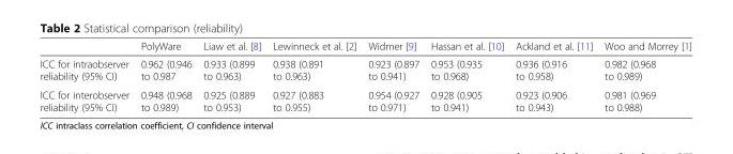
<table><thead><tr><td></td><td>PolyWare</td><td>Liaw et al. [8]</td><td>Lewinneck et al. [2]</td><td>Widmer [9]</td><td>Hassan et al. [10]</td><td>Ackland et al. [11]</td><td>Woo and Morrey [1]</td></tr></thead><tbody><tr><td>ICC for intraobserver reliability (95% CI)</td><td>0.962 (0.946 to 0.987</td><td>0.933 (0.899 to 0.963)</td><td>0.938 (0.891 to 0.963)</td><td>0.923 (0.897 to 0.941)</td><td>0.953 (0.935 to 0.968)</td><td>0.936 (0.916 to 0.958)</td><td>0.982 (0.968 to 0.989)</td></tr><tr><td>ICC for interobserver reliability (95% CI)</td><td>0.948 (0.968 to 0.989)</td><td>0.925 (0.889 to 0.953)</td><td>0.927 (0.883 to 0.955)</td><td>0.954 (0.927 to 0.971)</td><td>0.928 (0.905 to 0.941)</td><td>0.923 (0.906 to 0.943)</td><td>0.981 (0.969 to 0.988)</td></tr></tbody></table>